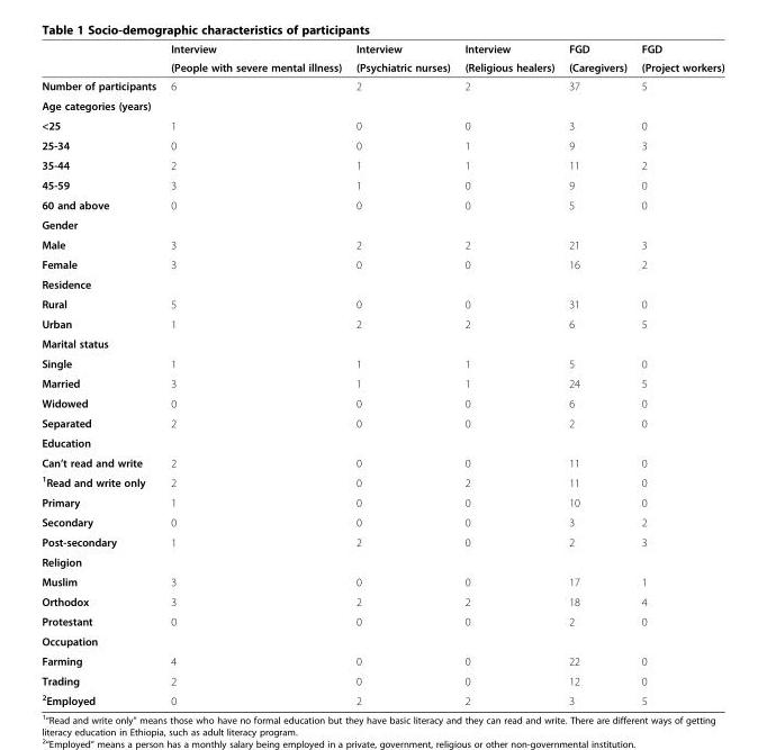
<table><thead><tr><td rowspan="2"></td><td rowspan="2">Interview (People with severe mental illness)</td><td rowspan="2">Interview (Psychiatric nurses)</td><td rowspan="2">Interview (Religious healers)</td><td rowspan="2">FGD (Caregivers)</td><td rowspan="2">FGD (Project workers)</td></tr><tr></tr></thead><tbody><tr><td>Number of participants</td><td>6</td><td>2</td><td>2</td><td>37</td><td>5</td></tr><tr><td colspan="6">Age categories (years)</td></tr><tr><td>&lt;25</td><td>1</td><td>0</td><td>0</td><td>3</td><td>0</td></tr><tr><td>25-34</td><td>0</td><td>0</td><td>1</td><td>9</td><td>3</td></tr><tr><td>35-44</td><td>2</td><td>1</td><td>1</td><td>11</td><td>2</td></tr><tr><td>45-59</td><td>3</td><td>1</td><td>0</td><td>9</td><td>0</td></tr><tr><td>60 and above</td><td>0</td><td>0</td><td>0</td><td>5</td><td>0</td></tr><tr><td colspan="6">Gender</td></tr><tr><td>Male</td><td>3</td><td>2</td><td>2</td><td>21</td><td>3</td></tr><tr><td>Female</td><td>3</td><td>0</td><td>0</td><td>16</td><td>2</td></tr><tr><td colspan="6">Residence</td></tr><tr><td>Rural</td><td>5</td><td>0</td><td>0</td><td>31</td><td>0</td></tr><tr><td>Urban</td><td>1</td><td>2</td><td>2</td><td>6</td><td>5</td></tr><tr><td colspan="6">Marital status</td></tr><tr><td>Single</td><td>1</td><td>1</td><td>1</td><td>5</td><td>0</td></tr><tr><td>Married</td><td>3</td><td>1</td><td>1</td><td>24</td><td>5</td></tr><tr><td>Widowed</td><td>0</td><td>0</td><td>0</td><td>6</td><td>0</td></tr><tr><td>Separated</td><td>2</td><td>0</td><td>0</td><td>2</td><td>0</td></tr><tr><td colspan="6">Education</td></tr><tr><td>Can’t read and write</td><td>2</td><td>0</td><td>0</td><td>11</td><td>0</td></tr><tr><td><sup>1</sup>Read and write only</td><td>2</td><td>0</td><td>2</td><td>11</td><td>0</td></tr><tr><td>Primary</td><td>1</td><td>0</td><td>0</td><td>10</td><td>0</td></tr><tr><td>Secondary</td><td>0</td><td>0</td><td>0</td><td>3</td><td>2</td></tr><tr><td>Post-secondary</td><td>1</td><td>2</td><td>0</td><td>2</td><td>3</td></tr><tr><td colspan="6">Religion</td></tr><tr><td>Muslim</td><td>3</td><td>0</td><td>0</td><td>17</td><td>1</td></tr><tr><td>Orthodox</td><td>3</td><td>2</td><td>2</td><td>18</td><td>4</td></tr><tr><td>Protestant</td><td>0</td><td>0</td><td>0</td><td>2</td><td>0</td></tr><tr><td colspan="6">Occupation</td></tr><tr><td>Farming</td><td>4</td><td>0</td><td>0</td><td>22</td><td>0</td></tr><tr><td>Trading</td><td>2</td><td>0</td><td>0</td><td>12</td><td>0</td></tr><tr><td><sup>2</sup>Employed</td><td>0</td><td>2</td><td>2</td><td>3</td><td>5</td></tr></tbody></table>